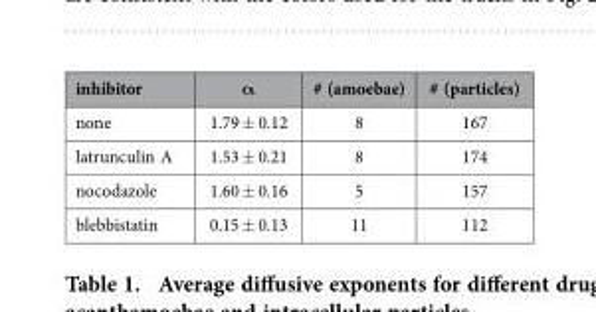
<table><thead><tr><td>inhibitor</td><td>α</td><td># (amoebae)</td><td># (particles)</td></tr></thead><tbody><tr><td>none</td><td>1.79 ± 0.12</td><td>8</td><td>167</td></tr><tr><td>latrunculin A</td><td>1.53 ± 0.21</td><td>8</td><td>174</td></tr><tr><td>nocodazole</td><td>1.60 ± 0.16</td><td>5</td><td>157</td></tr><tr><td>blebbistatin</td><td>0.15 ± 0.13</td><td>11</td><td>112</td></tr></tbody></table>